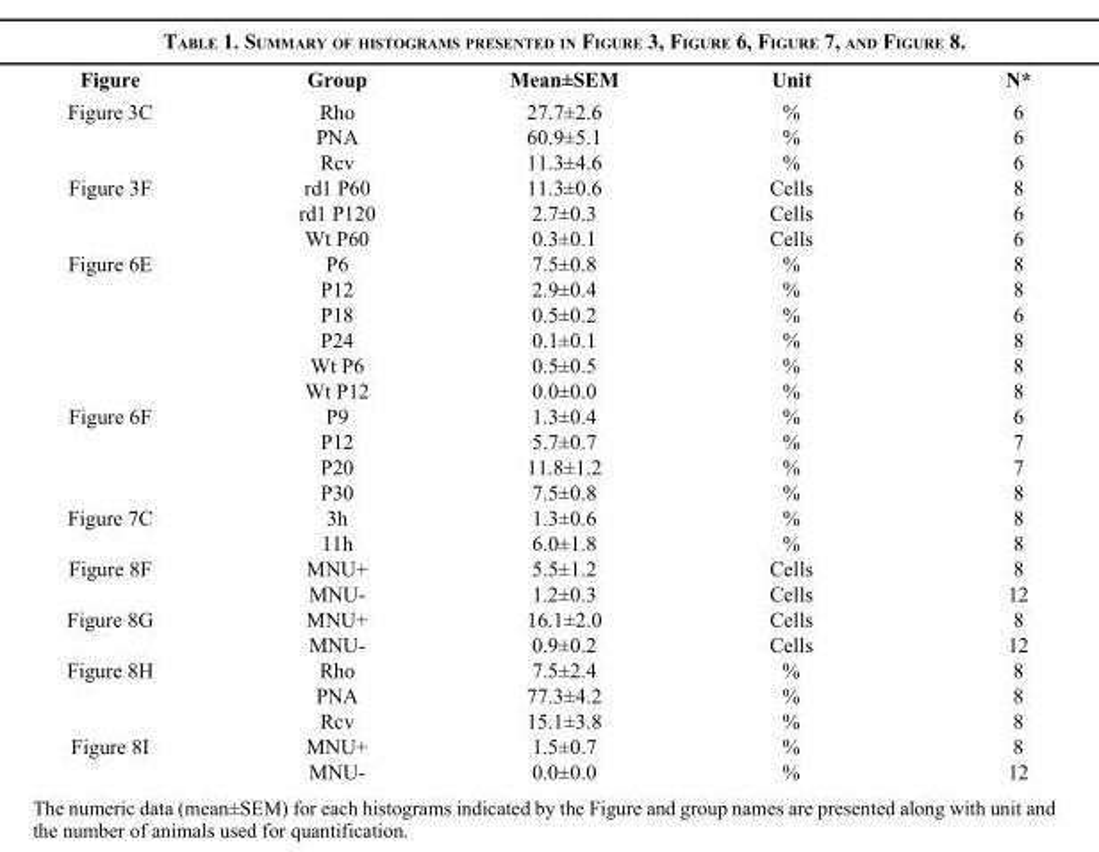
<table><thead><tr><td>Figure</td><td>Group</td><td>Mean±SEM</td><td>Unit</td><td>N*</td></tr></thead><tbody><tr><td rowspan="3">Figure 3C</td><td>Rho</td><td>27.7±2.6</td><td>%</td><td>6</td></tr><tr><td>PNA</td><td>60.9±5.1</td><td>%</td><td>6</td></tr><tr><td>Rcv</td><td>11.3±4.6</td><td>%</td><td>6</td></tr><tr><td rowspan="3">Figure 3F</td><td>rd1 P60</td><td>11.3±0.6</td><td>Cells</td><td>8</td></tr><tr><td>rd1 P120</td><td>2.7±0.3</td><td>Cells</td><td>6</td></tr><tr><td>Wt P60</td><td>0.3±0.1</td><td>Cells</td><td>6</td></tr><tr><td rowspan="6">Figure 6E</td><td>P6</td><td>7.5±0.8</td><td>%</td><td>8</td></tr><tr><td>P12</td><td>2.9±0.4</td><td>%</td><td>8</td></tr><tr><td>P18</td><td>0.5±0.2</td><td>%</td><td>6</td></tr><tr><td>P24</td><td>0.1±0.1</td><td>%</td><td>8</td></tr><tr><td>Wt P6</td><td>0.5±0.5</td><td>%</td><td>8</td></tr><tr><td>Wt P12</td><td>0.0±0.0</td><td>%</td><td>8</td></tr><tr><td rowspan="4">Figure 6F</td><td>P9</td><td>1.3±0.4</td><td>%</td><td>6</td></tr><tr><td>P12</td><td>5.7±0.7</td><td>%</td><td>7</td></tr><tr><td>P20</td><td>11.8±1.2</td><td>%</td><td>7</td></tr><tr><td>P30</td><td>7.5±0.8</td><td>%</td><td>8</td></tr><tr><td rowspan="2">Figure 7C</td><td>3h</td><td>1.3±0.6</td><td>%</td><td>8</td></tr><tr><td>11h</td><td>6.0±1.8</td><td>%</td><td>8</td></tr><tr><td rowspan="2">Figure 8F</td><td>MNU+</td><td>5.5±1.2</td><td>Cells</td><td>8</td></tr><tr><td>MNU-</td><td>1.2±0.3</td><td>Cells</td><td>12</td></tr><tr><td rowspan="2">Figure 8G</td><td>MNU+</td><td>16.1±2.0</td><td>Cells</td><td>8</td></tr><tr><td>MNU-</td><td>0.9±0.2</td><td>Cells</td><td>12</td></tr><tr><td rowspan="3">Figure 8H</td><td>Rho</td><td>7.5±2.4</td><td>%</td><td>8</td></tr><tr><td>PNA</td><td>77.3±4.2</td><td>%</td><td>8</td></tr><tr><td>Rcv</td><td>15.1±3.8</td><td>%</td><td>8</td></tr><tr><td rowspan="2">Figure 8I</td><td>MNU+</td><td>1.5±0.7</td><td>%</td><td>8</td></tr><tr><td>MNU-</td><td>0.0±0.0</td><td>%</td><td>12</td></tr></tbody></table>